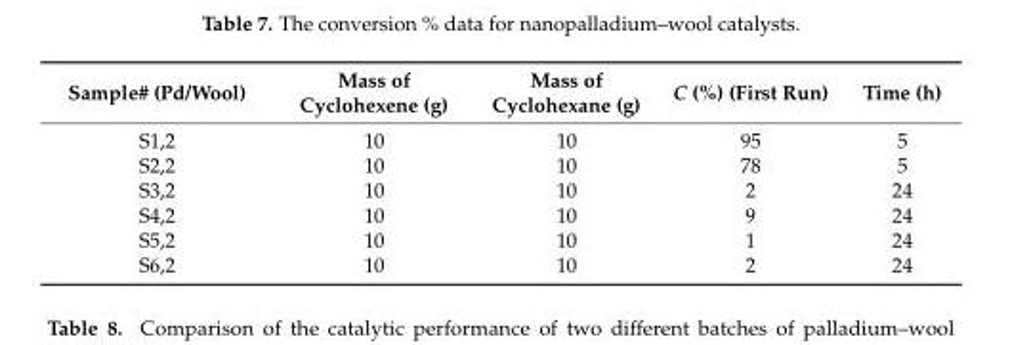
<table><thead><tr><td>Sample# (Pd/Wool)</td><td>Mass of Cyclohexene (g)</td><td>Mass of Cyclohexane (g)</td><td>C (%) (First Run)</td><td>Time (h)</td></tr></thead><tbody><tr><td>S1,2</td><td>10</td><td>10</td><td>95</td><td>5</td></tr><tr><td>S2,2</td><td>10</td><td>10</td><td>78</td><td>5</td></tr><tr><td>S3,2</td><td>10</td><td>10</td><td>2</td><td>24</td></tr><tr><td>S4,2</td><td>10</td><td>10</td><td>9</td><td>24</td></tr><tr><td>S5,2</td><td>10</td><td>10</td><td>1</td><td>24</td></tr><tr><td>S6,2</td><td>10</td><td>10</td><td>2</td><td>24</td></tr></tbody></table>